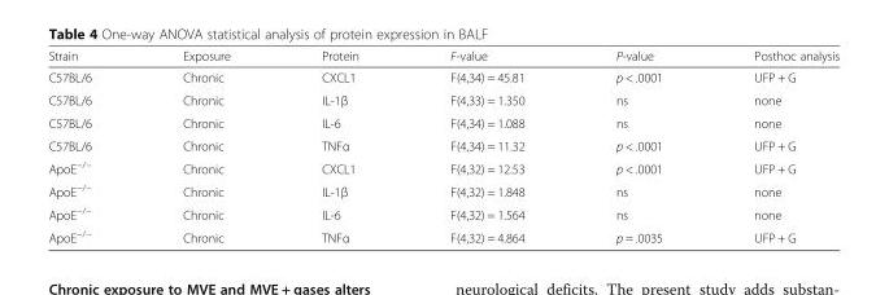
<table><thead><tr><td>Strain</td><td>Exposure</td><td>Protein</td><td>F-value</td><td>P-value</td><td>Posthoc analysis</td></tr></thead><tbody><tr><td>C57BL/6</td><td>Chronic</td><td>CXCL1</td><td>F(4,34) = 45.81</td><td>p &lt; .0001</td><td>UFP + G</td></tr><tr><td>C57BL/6</td><td>Chronic</td><td>IL-1β</td><td>F(4,33) = 1.350</td><td>ns</td><td>none</td></tr><tr><td>C57BL/6</td><td>Chronic</td><td>IL-6</td><td>F(4,34) = 1.088</td><td>ns</td><td>none</td></tr><tr><td>C57BL/6</td><td>Chronic</td><td>TNFα</td><td>F(4,34) = 11.32</td><td>p &lt; .0001</td><td>UFP + G</td></tr><tr><td>ApoE<sup>−/−</sup></td><td>Chronic</td><td>CXCL1</td><td>F(4,32) = 12.53</td><td>p &lt; .0001</td><td>UFP + G</td></tr><tr><td>ApoE<sup>−/−</sup></td><td>Chronic</td><td>IL-1β</td><td>F(4,32) = 1.848</td><td>ns</td><td>none</td></tr><tr><td>ApoE<sup>−/−</sup></td><td>Chronic</td><td>IL-6</td><td>F(4,32) = 1.564</td><td>ns</td><td>none</td></tr><tr><td>ApoE<sup>−/−</sup></td><td>Chronic</td><td>TNFα</td><td>F(4,32) = 4.864</td><td>p = .0035</td><td>UFP + G</td></tr></tbody></table>